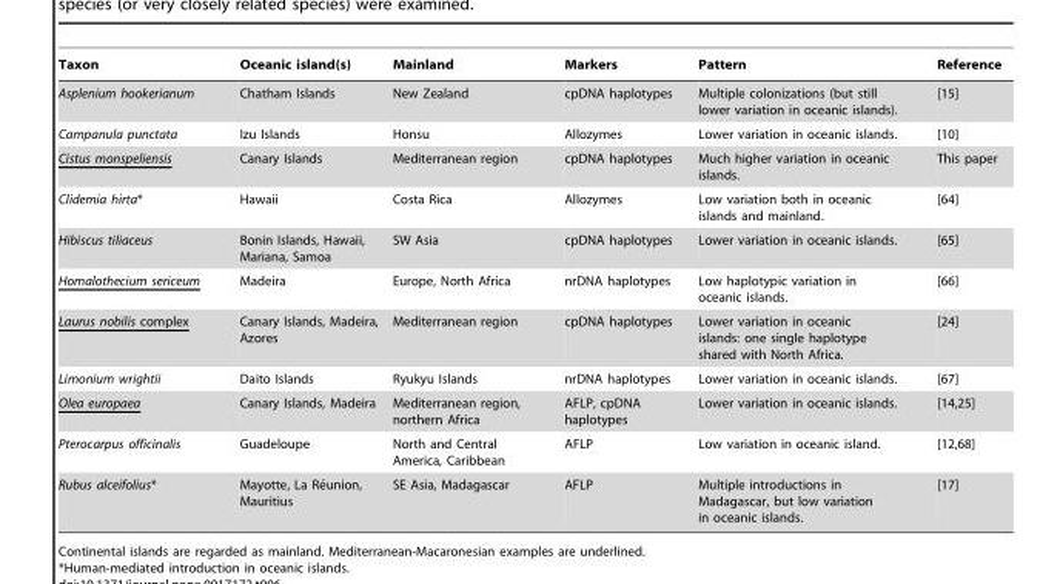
<table><thead><tr><td>Taxon</td><td>Oceanic island(s)</td><td>Mainland</td><td>Markers</td><td>Pattern</td><td>Reference</td></tr></thead><tbody><tr><td>Asplenium hookerianum</td><td>Chatham Islands</td><td>New Zealand</td><td>cpDNA haplotypes</td><td>Multiple colonizations (but still lower variation in oceanic islands).</td><td>[15]</td></tr><tr><td>Campanula punctata</td><td>Izu Islands</td><td>Honsu</td><td>Allozymes</td><td>Lower variation in oceanic islands.</td><td>[10]</td></tr><tr><td>Cistus monspeliensis</td><td>Canary Islands</td><td>Mediterranean region</td><td>cpDNA haplotypes</td><td>Much higher variation in oceanic islands.</td><td>This paper</td></tr><tr><td>Clidemia hirta*</td><td>Hawaii</td><td>Costa Rica</td><td>Allozymes</td><td>Low variation both in oceanic islands and mainland.</td><td>[64]</td></tr><tr><td>Hibiscus tiliaceus</td><td>Bonin Islands, Hawaii, Mariana, Samoa</td><td>SW Asia</td><td>cpDNA haplotypes</td><td>Lower variation in oceanic islands.</td><td>[65]</td></tr><tr><td>Homalothecium sericeum</td><td>Madeira</td><td>Europe, North Africa</td><td>nrDNA haplotypes</td><td>Low haplotypic variation in oceanic islands.</td><td>[66]</td></tr><tr><td>Laurus nobilis complex</td><td>Canary Islands, Madeira, Azores</td><td>Mediterranean region</td><td>cpDNA haplotypes</td><td>Lower variation in oceanic islands: one single haplotype shared with North Africa.</td><td>[24]</td></tr><tr><td>Limonium wrightii</td><td>Daito Islands</td><td>Ryukyu Islands</td><td>nrDNA haplotypes</td><td>Lower variation in oceanic islands.</td><td>[67]</td></tr><tr><td>Olea europaea</td><td>Canary Islands, Madeira</td><td>Mediterranean region, northern Africa</td><td>AFLP, cpDNA haplotypes</td><td>Lower variation in oceanic islands.</td><td>[14,25]</td></tr><tr><td>Pterocarpus officinalis</td><td>Guadeloupe</td><td>North and Central America, Caribbean</td><td>AFLP</td><td>Low variation in oceanic island.</td><td>[12,68]</td></tr><tr><td>Rubus alceifolius*</td><td>Mayotte, La Re´union, Mauritius</td><td>SE Asia, Madagascar</td><td>AFLP</td><td>Multiple introductions in Madagascar, but low variation in oceanic islands.</td><td>[17]</td></tr></tbody></table>